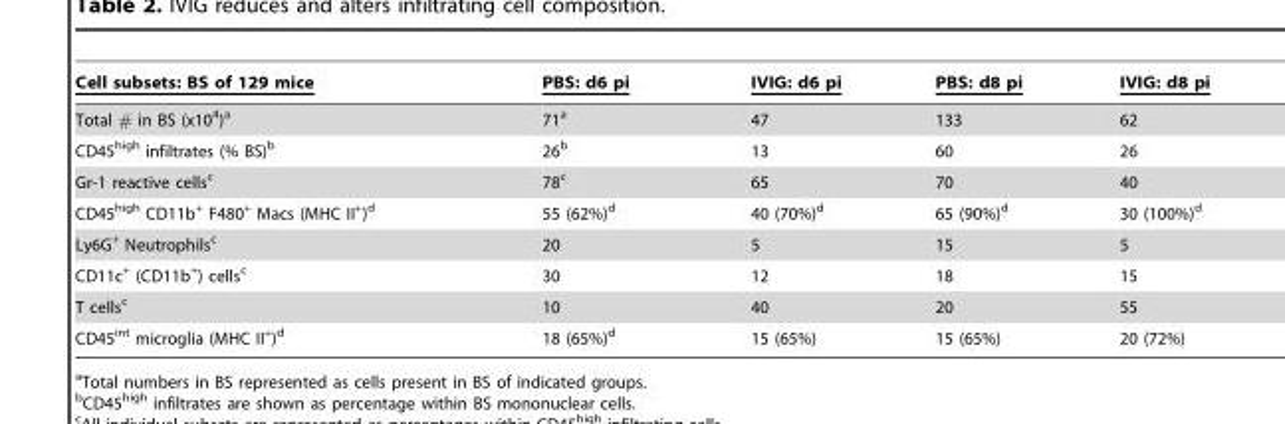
<table><thead><tr><td>Cell subsets: BS of 129 mice</td><td>PBS: d6 pi</td><td>IVIG: d6 pi</td><td>PBS: d8 pi</td><td>IVIG: d8 pi</td></tr></thead><tbody><tr><td>Total # in BS (x10<sup>4</sup>)<sup>a</sup></td><td>71<sup>a</sup></td><td>47</td><td>133</td><td>62</td></tr><tr><td>CD45<sup>high</sup> infiltrates (% BS)<sup>b</sup></td><td>26<sup>b</sup></td><td>13</td><td>60</td><td>26</td></tr><tr><td>Gr-1 reactive cells<sup>c</sup></td><td>78<sup>c</sup></td><td>65</td><td>70</td><td>40</td></tr><tr><td>CD45<sup>high</sup> CD11b<sup>+</sup> F480<sup>+</sup> Macs (MHC II<sup>+</sup>)<sup>d</sup></td><td>55 (62%)<sup>d</sup></td><td>40 (70%)<sup>d</sup></td><td>65 (90%)<sup>d</sup></td><td>30 (100%)<sup>d</sup></td></tr><tr><td>Ly6G<sup>+</sup> Neutrophils<sup>c</sup></td><td>20</td><td>5</td><td>15</td><td>5</td></tr><tr><td>CD11c<sup>+</sup> (CD11b<sup>+</sup>) cells<sup>c</sup></td><td>30</td><td>12</td><td>18</td><td>15</td></tr><tr><td>T cells<sup>c</sup></td><td>10</td><td>40</td><td>20</td><td>55</td></tr><tr><td>CD45<sup>int</sup> microglia (MHC II<sup>+</sup>)<sup>d</sup></td><td>18 (65%)<sup>d</sup></td><td>15 (65%)</td><td>15 (65%)</td><td>20 (72%)</td></tr></tbody></table>